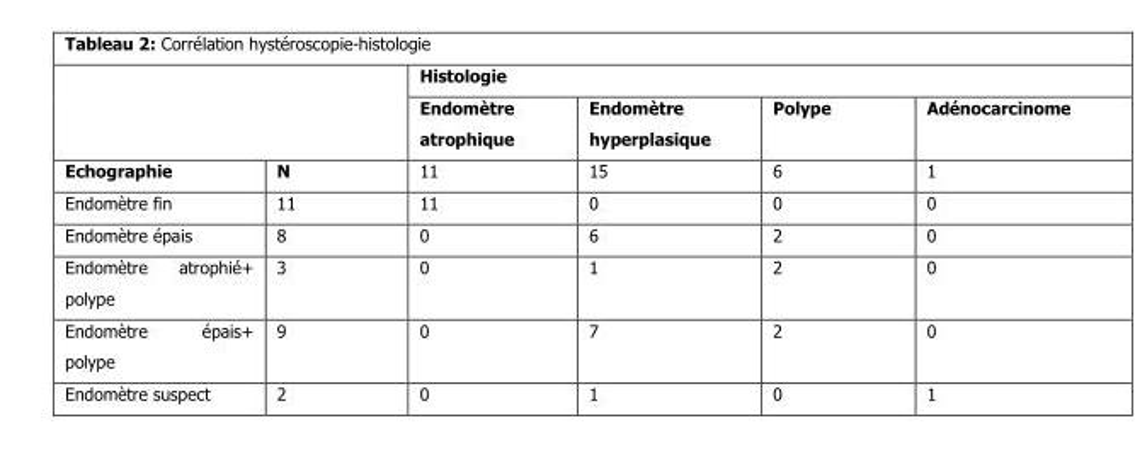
<table><thead><tr><td rowspan="2"></td><td rowspan="2"></td><td colspan="4">Histologie</td></tr><tr><td>Endomètre atrophique</td><td>Endomètre hyperplasique</td><td>Polype</td><td>Adénocarcinome</td></tr></thead><tbody><tr><td>Echographie</td><td>N</td><td>11</td><td>15</td><td>6</td><td>1</td></tr><tr><td>Endomètre fin</td><td>11</td><td>11</td><td>0</td><td>0</td><td>0</td></tr><tr><td>Endomètre épais</td><td>8</td><td>0</td><td>6</td><td>2</td><td>0</td></tr><tr><td>Endomètre atrophié+ polype</td><td>3</td><td>0</td><td>1</td><td>2</td><td>0</td></tr><tr><td>Endomètre épais+ polype</td><td>9</td><td>0</td><td>7</td><td>2</td><td>0</td></tr><tr><td>Endomètre suspect</td><td>2</td><td>0</td><td>1</td><td>0</td><td>1</td></tr></tbody></table>